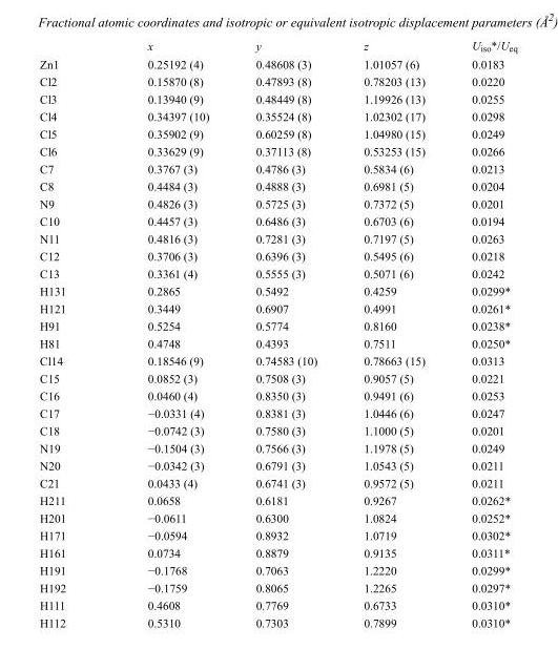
<table><thead><tr><td></td><td>x</td><td>y</td><td>z</td><td>U<sub>iso</sub>*/U<sub>eq</sub></td></tr></thead><tbody><tr><td>Zn1</td><td>0.25192 (4)</td><td>0.48608 (3)</td><td>1.01057 (6)</td><td>0.0183</td></tr><tr><td>Cl2</td><td>0.15870 (8)</td><td>0.47893 (8)</td><td>0.78203 (13)</td><td>0.0220</td></tr><tr><td>Cl3</td><td>0.13940 (9)</td><td>0.48449 (8)</td><td>1.19926 (13)</td><td>0.0255</td></tr><tr><td>Cl4</td><td>0.34397 (10)</td><td>0.35524 (8)</td><td>1.02302 (17)</td><td>0.0298</td></tr><tr><td>Cl5</td><td>0.35902 (9)</td><td>0.60259 (8)</td><td>1.04980 (15)</td><td>0.0249</td></tr><tr><td>Cl6</td><td>0.33629 (9)</td><td>0.37113 (8)</td><td>0.53253 (15)</td><td>0.0266</td></tr><tr><td>C7</td><td>0.3767 (3)</td><td>0.4786 (3)</td><td>0.5834 (6)</td><td>0.0213</td></tr><tr><td>C8</td><td>0.4484 (3)</td><td>0.4888 (3)</td><td>0.6981 (5)</td><td>0.0204</td></tr><tr><td>N9</td><td>0.4826 (3)</td><td>0.5725 (3)</td><td>0.7372 (5)</td><td>0.0201</td></tr><tr><td>C10</td><td>0.4457 (3)</td><td>0.6486 (3)</td><td>0.6703 (6)</td><td>0.0194</td></tr><tr><td>N11</td><td>0.4816 (3)</td><td>0.7281 (3)</td><td>0.7197 (5)</td><td>0.0263</td></tr><tr><td>C12</td><td>0.3706 (3)</td><td>0.6396 (3)</td><td>0.5495 (6)</td><td>0.0218</td></tr><tr><td>C13</td><td>0.3361 (4)</td><td>0.5555 (3)</td><td>0.5071 (6)</td><td>0.0242</td></tr><tr><td>H131</td><td>0.2865</td><td>0.5492</td><td>0.4259</td><td>0.0299*</td></tr><tr><td>H121</td><td>0.3449</td><td>0.6907</td><td>0.4991</td><td>0.0261*</td></tr><tr><td>H91</td><td>0.5254</td><td>0.5774</td><td>0.8160</td><td>0.0238*</td></tr><tr><td>H81</td><td>0.4748</td><td>0.4393</td><td>0.7511</td><td>0.0250*</td></tr><tr><td>Cl14</td><td>0.18546 (9)</td><td>0.74583 (10)</td><td>0.78663 (15)</td><td>0.0313</td></tr><tr><td>C15</td><td>0.0852 (3)</td><td>0.7508 (3)</td><td>0.9057 (5)</td><td>0.0221</td></tr><tr><td>C16</td><td>0.0460 (4)</td><td>0.8350 (3)</td><td>0.9491 (6)</td><td>0.0253</td></tr><tr><td>C17</td><td>−0.0331 (4)</td><td>0.8381 (3)</td><td>1.0446 (6)</td><td>0.0247</td></tr><tr><td>C18</td><td>−0.0742 (3)</td><td>0.7580 (3)</td><td>1.1000 (5)</td><td>0.0201</td></tr><tr><td>N19</td><td>−0.1504 (3)</td><td>0.7566 (3)</td><td>1.1978 (5)</td><td>0.0249</td></tr><tr><td>N20</td><td>−0.0342 (3)</td><td>0.6791 (3)</td><td>1.0543 (5)</td><td>0.0211</td></tr><tr><td>C21</td><td>0.0433 (4)</td><td>0.6741 (3)</td><td>0.9572 (5)</td><td>0.0211</td></tr><tr><td>H211</td><td>0.0658</td><td>0.6181</td><td>0.9267</td><td>0.0262*</td></tr><tr><td>H201</td><td>−0.0611</td><td>0.6300</td><td>1.0824</td><td>0.0252*</td></tr><tr><td>H171</td><td>−0.0594</td><td>0.8932</td><td>1.0719</td><td>0.0302*</td></tr><tr><td>H161</td><td>0.0734</td><td>0.8879</td><td>0.9135</td><td>0.0311*</td></tr><tr><td>H191</td><td>−0.1768</td><td>0.7063</td><td>1.2220</td><td>0.0299*</td></tr><tr><td>H192</td><td>−0.1759</td><td>0.8065</td><td>1.2265</td><td>0.0297*</td></tr><tr><td>H111</td><td>0.4608</td><td>0.7769</td><td>0.6733</td><td>0.0310*</td></tr><tr><td>H112</td><td>0.5310</td><td>0.7303</td><td>0.7899</td><td>0.0310*</td></tr></tbody></table>